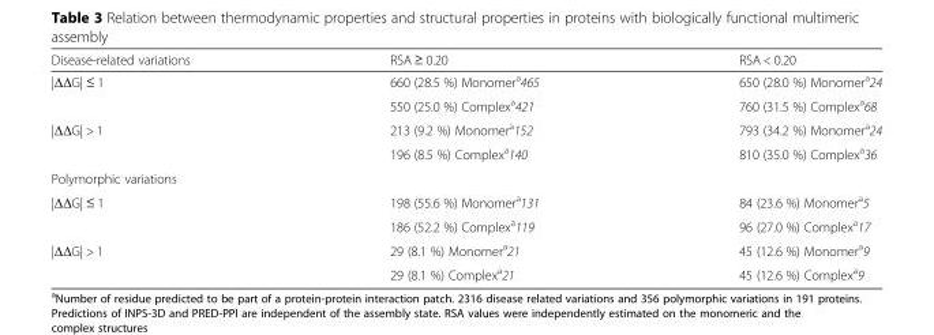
<table><thead><tr><td>Disease-related variations</td><td>RSA ≥ 0.20</td><td>RSA &lt; 0.20</td></tr></thead><tbody><tr><td rowspan="2">|ΔΔG| ≤ 1</td><td>660 (28.5 %) Monomer<sup>a</sup>465</td><td>650 (28.0 %) Monomer<sup>a</sup>24</td></tr><tr><td>550 (25.0 %) Complex<sup>a</sup>421</td><td>760 (31.5 %) Complex<sup>a</sup>68</td></tr><tr><td rowspan="2">|ΔΔG| &gt; 1</td><td>213 (9.2 %) Monomer<sup>a</sup>152</td><td>793 (34.2 %) Monomer<sup>a</sup>24</td></tr><tr><td>196 (8.5 %) Complex<sup>a</sup>140</td><td>810 (35.0 %) Complex<sup>a</sup>36</td></tr><tr><td colspan="3">Polymorphic variations</td></tr><tr><td rowspan="2">|ΔΔG| ≤ 1</td><td>198 (55.6 %) Monomer<sup>a</sup>131</td><td>84 (23.6 %) Monomer<sup>a</sup>5</td></tr><tr><td>186 (52.2 %) Complex<sup>a</sup>119</td><td>96 (27.0 %) Complex<sup>a</sup>17</td></tr><tr><td rowspan="2">|ΔΔG| &gt; 1</td><td>29 (8.1 %) Monomer<sup>a</sup>21</td><td>45 (12.6 %) Monomer<sup>a</sup>9</td></tr><tr><td>29 (8.1 %) Complex<sup>a</sup>21</td><td>45 (12.6 %) Complex<sup>a</sup>9</td></tr></tbody></table>